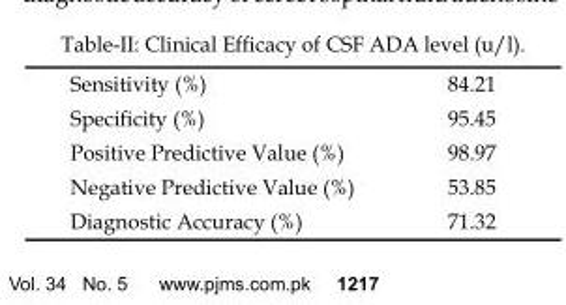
<table><thead><tr><td>Sensitivity (%)</td><td>84.21</td></tr></thead><tbody><tr><td>Specificity (%)</td><td>95.45</td></tr><tr><td>Positive Predictive Value (%)</td><td>98.97</td></tr><tr><td>Negative Predictive Value (%)</td><td>53.85</td></tr><tr><td>Diagnostic Accuracy (%)</td><td>71.32</td></tr></tbody></table>